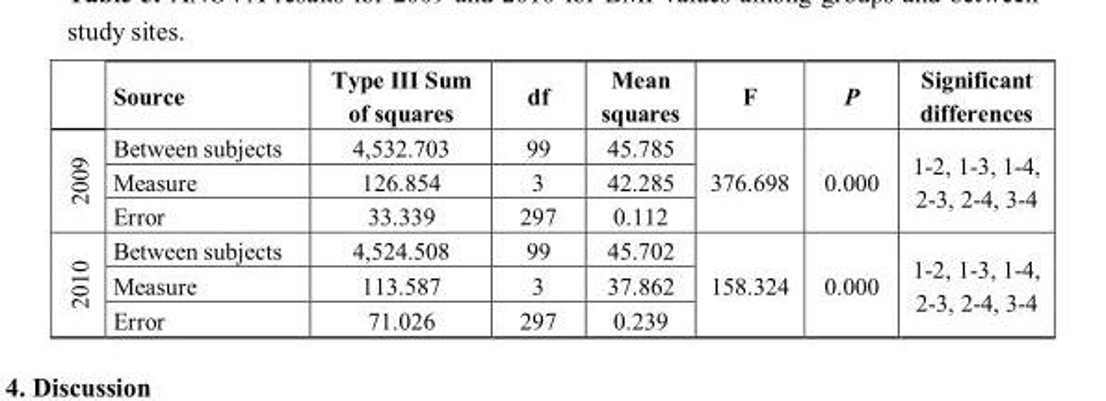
<table><thead><tr><td></td><td>Source</td><td>Type III Sum of squares</td><td>df</td><td>Mean squares</td><td>F</td><td>P</td><td>Significant differences</td></tr></thead><tbody><tr><td rowspan="3">2009</td><td>Between subjects</td><td>4,532.703</td><td>99</td><td>45.785</td><td rowspan="3">376.698</td><td rowspan="3">0.000</td><td rowspan="3">1-2, 1-3, 1-4, 2-3, 2-4, 3-4</td></tr><tr><td>Measure</td><td>126.854</td><td>3</td><td>42.285</td></tr><tr><td>Error</td><td>33.339</td><td>297</td><td>0.112</td></tr><tr><td rowspan="3">2010</td><td>Between subjects</td><td>4,524.508</td><td>99</td><td>45.702</td><td rowspan="3">158.324</td><td rowspan="3">0.000</td><td rowspan="3">1-2, 1-3, 1-4, 2-3, 2-4, 3-4</td></tr><tr><td>Measure</td><td>113.587</td><td>3</td><td>37.862</td></tr><tr><td>Error</td><td>71.026</td><td>297</td><td>0.239</td></tr></tbody></table>